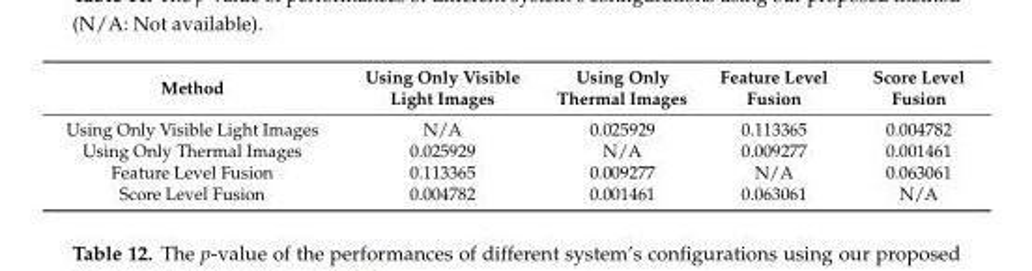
<table><thead><tr><td>Method</td><td>Using Only Visible Light Images</td><td>Using Only Thermal Images</td><td>Feature Level Fusion</td><td>Score Level Fusion</td></tr></thead><tbody><tr><td>Using Only Visible Light Images</td><td>N/A</td><td>0.025929</td><td>0.113365</td><td>0.004782</td></tr><tr><td>Using Only Thermal Images</td><td>0.025929</td><td>N/A</td><td>0.009277</td><td>0.001461</td></tr><tr><td>Feature Level Fusion</td><td>0.113365</td><td>0.009277</td><td>N/A</td><td>0.063061</td></tr><tr><td>Score Level Fusion</td><td>0.004782</td><td>0.001461</td><td>0.063061</td><td>N/A</td></tr></tbody></table>